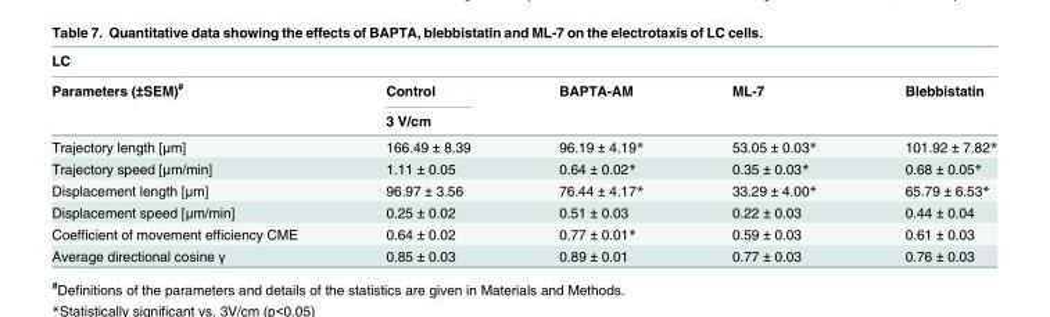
<table><thead><tr><td colspan="5">LC</td></tr><tr><td rowspan="2">Parameters (±SEM)<sup>#</sup></td><td>Control</td><td>BAPTA-AM</td><td>ML-7</td><td>Blebbistatin</td></tr><tr><td colspan="4">3 V/cm</td></tr></thead><tbody><tr><td>Trajectory length [μm]</td><td>166.49 ± 8.39</td><td>96.19 ± 4.19*</td><td>53.05 ± 0.03*</td><td>101.92 ± 7.82*</td></tr><tr><td>Trajectory speed [μm/min]</td><td>1.11 ± 0.05</td><td>0.64 ± 0.02*</td><td>0.35 ± 0.03*</td><td>0.68 ± 0.05*</td></tr><tr><td>Displacement length [μm]</td><td>96.97 ± 3.56</td><td>76.44 ± 4.17*</td><td>33.29 ± 4.00*</td><td>65.79 ± 6.53*</td></tr><tr><td>Displacement speed [μm/min]</td><td>0.25 ± 0.02</td><td>0.51 ± 0.03</td><td>0.22 ± 0.03</td><td>0.44 ± 0.04</td></tr><tr><td>Coefficient of movement efficiency CME</td><td>0.64 ± 0.02</td><td>0.77 ± 0.01*</td><td>0.59 ± 0.03</td><td>0.61 ± 0.03</td></tr><tr><td>Average directional cosine γ</td><td>0.85 ± 0.03</td><td>0.89 ± 0.01</td><td>0.77 ± 0.03</td><td>0.76 ± 0.03</td></tr></tbody></table>